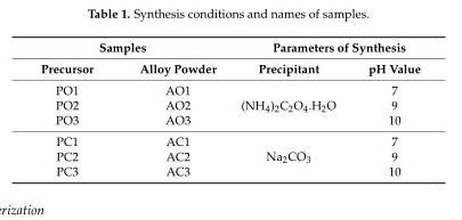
<table><thead><tr><td colspan="2">Samples</td><td colspan="2">Parameters of Synthesis</td></tr><tr><td>Precursor</td><td>Alloy Powder</td><td>Precipitant</td><td>pH Value</td></tr></thead><tbody><tr><td>PO1</td><td>AO1</td><td rowspan="3">(NH<sub>4</sub>)<sub>2</sub>C<sub>2</sub>O<sub>4</sub>.H<sub>2</sub>O</td><td>7</td></tr><tr><td>PO2</td><td>AO2</td><td>9</td></tr><tr><td>PO3</td><td>AO3</td><td>10</td></tr><tr><td>PC1</td><td>AC1</td><td rowspan="3">Na<sub>2</sub>CO<sub>3</sub></td><td>7</td></tr><tr><td>PC2</td><td>AC2</td><td>9</td></tr><tr><td>PC3</td><td>AC3</td><td>10</td></tr></tbody></table>